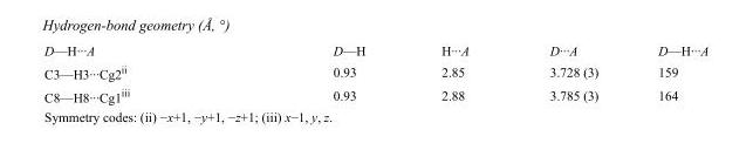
<table><tbody><tr><td>D—H···A</td><td>D—H</td><td>H···A</td><td>D···A</td><td>D—H···A</td></tr><tr><td>C3—H3···Cg2<sup>ii</sup></td><td>0.93</td><td>2.85</td><td>3.728 (3)</td><td>159</td></tr><tr><td>C8—H8···Cg1<sup>iii</sup></td><td>0.93</td><td>2.88</td><td>3.785 (3)</td><td>164</td></tr></tbody></table>